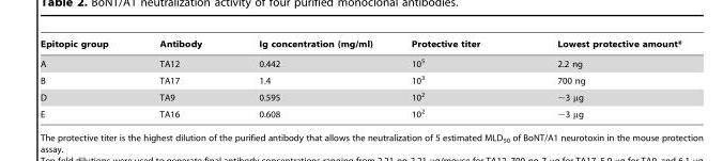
<table><thead><tr><td>Epitopic group</td><td>Antibody</td><td>Ig concentration (mg/ml)</td><td>Protective titer</td><td>Lowest protective amount*</td></tr></thead><tbody><tr><td>A</td><td>TA12</td><td>0.442</td><td>10<sup>5</sup></td><td>2.2 ng</td></tr><tr><td>B</td><td>TA17</td><td>1.4</td><td>10<sup>3</sup></td><td>700 ng</td></tr><tr><td>D</td><td>TA9</td><td>0.595</td><td>10<sup>2</sup></td><td>∼3 µg</td></tr><tr><td>E</td><td>TA16</td><td>0.608</td><td>10<sup>2</sup></td><td>∼3 µg</td></tr></tbody></table>